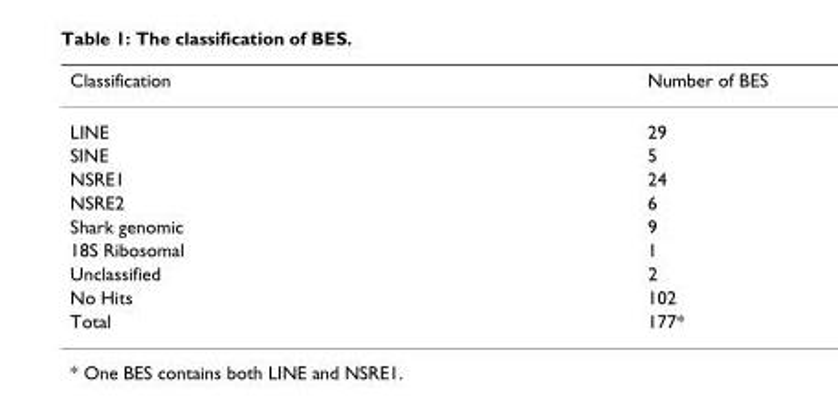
<table><thead><tr><td>Classification</td><td>Number of BES</td></tr></thead><tbody><tr><td>LINE</td><td>29</td></tr><tr><td>SINE</td><td>5</td></tr><tr><td>NSRE1</td><td>24</td></tr><tr><td>NSRE2</td><td>6</td></tr><tr><td>Shark genomic</td><td>9</td></tr><tr><td>18S Ribosomal</td><td>1</td></tr><tr><td>Unclassified</td><td>2</td></tr><tr><td>No Hits</td><td>102</td></tr><tr><td>Total</td><td>177*</td></tr></tbody></table>